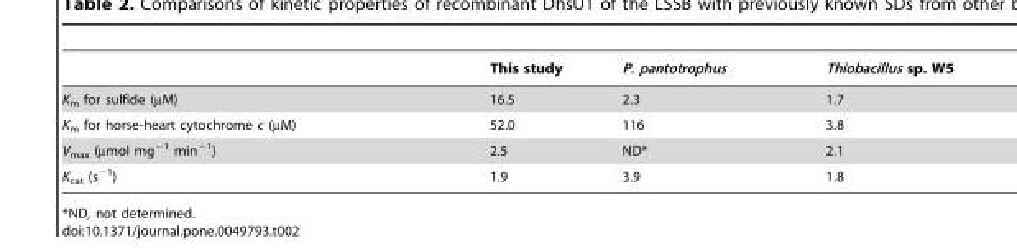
<table><thead><tr><td></td><td>This study</td><td>P. pantotrophus</td><td>Thiobacillus sp. W5</td></tr></thead><tbody><tr><td>K<sub>m</sub> for sulfide (µM)</td><td>16.5</td><td>2.3</td><td>1.7</td></tr><tr><td>K<sub>m</sub> for horse-heart cytochrome c (µM)</td><td>52.0</td><td>116</td><td>3.8</td></tr><tr><td>V<sub>max</sub> (µmol mg<sup>−1</sup> min<sup>−1</sup>)</td><td>2.5</td><td>ND*</td><td>2.1</td></tr><tr><td>K<sub>cat</sub> (s<sup>−1</sup>)</td><td>1.9</td><td>3.9</td><td>1.8</td></tr></tbody></table>